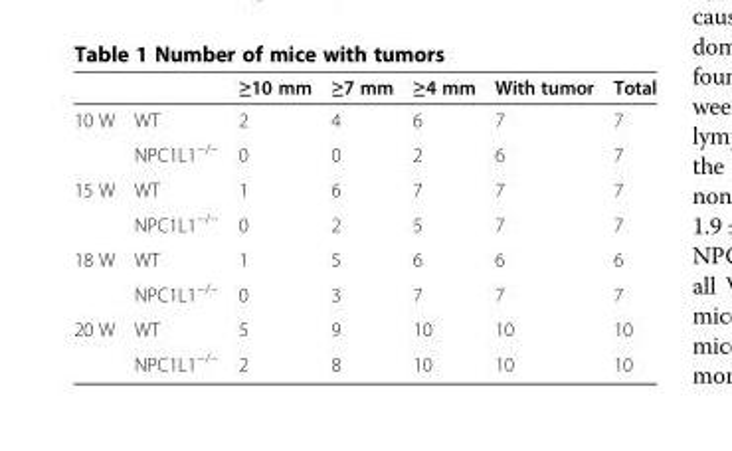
<table><thead><tr><td></td><td></td><td>≥10 mm</td><td>≥7 mm</td><td>≥4 mm</td><td>With tumor</td><td>Total</td></tr></thead><tbody><tr><td rowspan="2">10 W</td><td>WT</td><td>2</td><td>4</td><td>6</td><td>7</td><td>7</td></tr><tr><td>NPC1L1<sup>−/−</sup></td><td>0</td><td>0</td><td>2</td><td>6</td><td>7</td></tr><tr><td rowspan="2">15 W</td><td>WT</td><td>1</td><td>6</td><td>7</td><td>7</td><td>7</td></tr><tr><td>NPC1L1<sup>−/−</sup></td><td>0</td><td>2</td><td>5</td><td>7</td><td>7</td></tr><tr><td rowspan="2">18 W</td><td>WT</td><td>1</td><td>5</td><td>6</td><td>6</td><td>6</td></tr><tr><td>NPC1L1<sup>−/−</sup></td><td>0</td><td>3</td><td>7</td><td>7</td><td>7</td></tr><tr><td rowspan="2">20 W</td><td>WT</td><td>5</td><td>9</td><td>10</td><td>10</td><td>10</td></tr><tr><td>NPC1L1<sup>−/−</sup></td><td>2</td><td>8</td><td>10</td><td>10</td><td>10</td></tr></tbody></table>